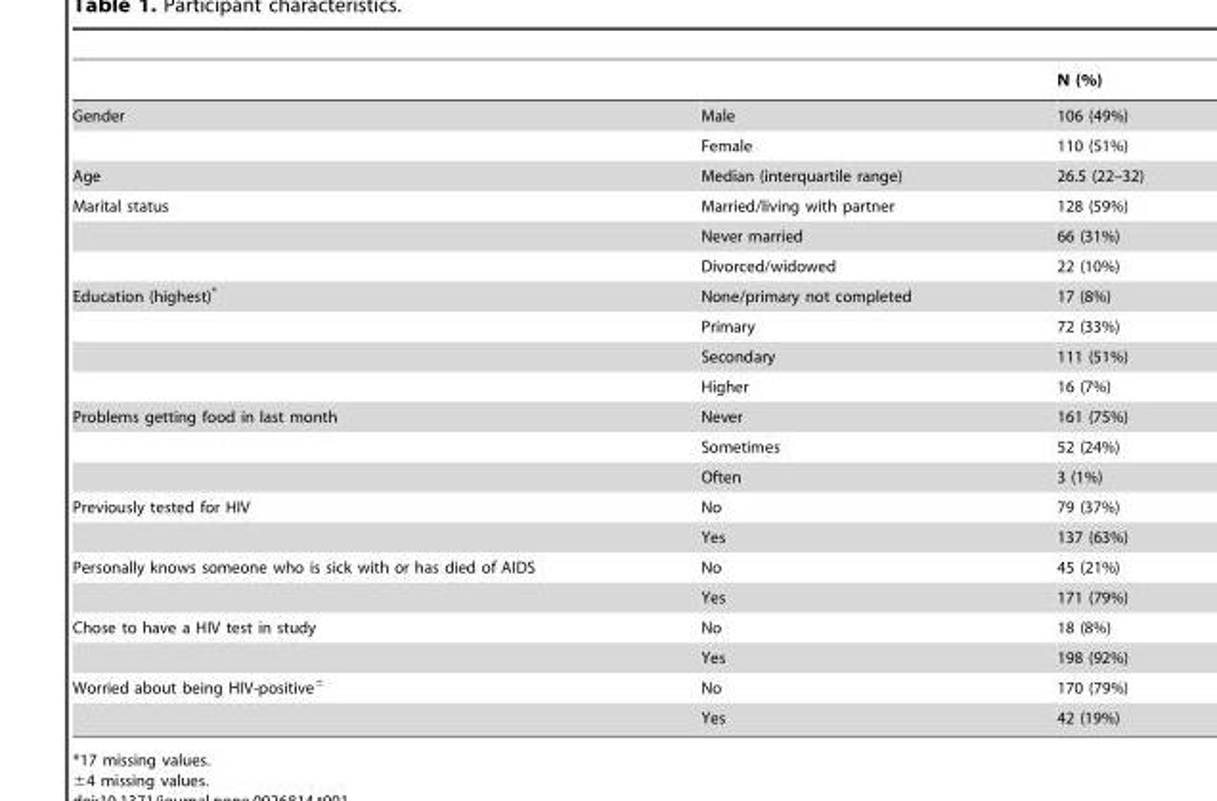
<table><thead><tr><td></td><td></td><td>N (%)</td></tr></thead><tbody><tr><td rowspan="2">Gender</td><td>Male</td><td>106 (49%)</td></tr><tr><td>Female</td><td>110 (51%)</td></tr><tr><td>Age</td><td>Median (interquartile range)</td><td>26.5 (22–32)</td></tr><tr><td rowspan="3">Marital status</td><td>Married/living with partner</td><td>128 (59%)</td></tr><tr><td>Never married</td><td>66 (31%)</td></tr><tr><td>Divorced/widowed</td><td>22 (10%)</td></tr><tr><td rowspan="4">Education (highest)*</td><td>None/primary not completed</td><td>17 (8%)</td></tr><tr><td>Primary</td><td>72 (33%)</td></tr><tr><td>Secondary</td><td>111 (51%)</td></tr><tr><td>Higher</td><td>16 (7%)</td></tr><tr><td rowspan="3">Problems getting food in last month</td><td>Never</td><td>161 (75%)</td></tr><tr><td>Sometimes</td><td>52 (24%)</td></tr><tr><td>Often</td><td>3 (1%)</td></tr><tr><td rowspan="2">Previously tested for HIV</td><td>No</td><td>79 (37%)</td></tr><tr><td>Yes</td><td>137 (63%)</td></tr><tr><td rowspan="2">Personally knows someone who is sick with or has died of AIDS</td><td>No</td><td>45 (21%)</td></tr><tr><td>Yes</td><td>171 (79%)</td></tr><tr><td rowspan="2">Chose to have a HIV test in study</td><td>No</td><td>18 (8%)</td></tr><tr><td>Yes</td><td>198 (92%)</td></tr><tr><td rowspan="2">Worried about being HIV-positive±</td><td>No</td><td>170 (79%)</td></tr><tr><td>Yes</td><td>42 (19%)</td></tr></tbody></table>